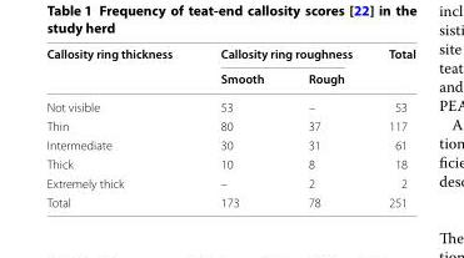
<table><thead><tr><td rowspan="2">Callosity ring thickness</td><td colspan="2">Callosity ring roughness</td><td rowspan="2">Total</td></tr><tr><td>Smooth</td><td>Rough</td></tr></thead><tbody><tr><td>Not visible</td><td>53</td><td>–</td><td>53</td></tr><tr><td>Thin</td><td>80</td><td>37</td><td>117</td></tr><tr><td>Intermediate</td><td>30</td><td>31</td><td>61</td></tr><tr><td>Thick</td><td>10</td><td>8</td><td>18</td></tr><tr><td>Extremely thick</td><td>–</td><td>2</td><td>2</td></tr><tr><td>Total</td><td>173</td><td>78</td><td>251</td></tr></tbody></table>